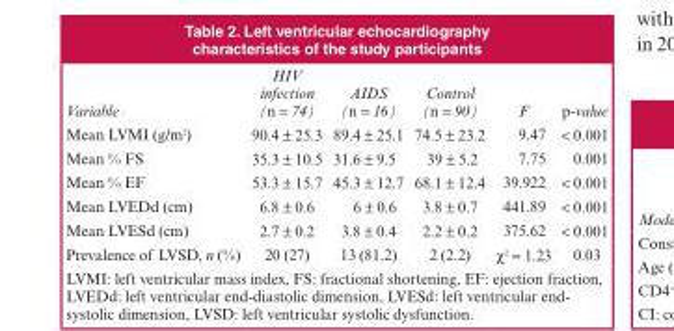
<table><thead><tr><td>Variable</td><td>HIV infection (n = 74)</td><td>AIDS (n = 16)</td><td>Control (n = 90)</td><td>F</td><td>p-value</td></tr></thead><tbody><tr><td>Mean LVMI (g/m<sup>2</sup>)</td><td>90.4 ± 25.3</td><td>89.4 ± 25.1</td><td>74.5 ± 23.2</td><td>9.47</td><td>&lt; 0.001</td></tr><tr><td>Mean % FS</td><td>35.3 ± 10.5</td><td>31.6 ± 9.5</td><td>39 ± 5.2</td><td>7.75</td><td>0.001</td></tr><tr><td>Mean % EF</td><td>53.3 ± 15.7</td><td>45.3 ± 12.7</td><td>68.1 ± 12.4</td><td>39.922</td><td>&lt; 0.001</td></tr><tr><td>Mean LVEDd (cm)</td><td>6.8 ± 0.6</td><td>6 ± 0.6</td><td>3.8 ± 0.7</td><td>441.89</td><td>&lt; 0.001</td></tr><tr><td>Mean LVESd (cm)</td><td>2.7 ± 0.2</td><td>3.8 ± 0.4</td><td>2.2 ± 0.2</td><td>375.62</td><td>&lt; 0.001</td></tr><tr><td>Prevalence of LVSD, n (%)</td><td>20 (27)</td><td>13 (81.2)</td><td>2 (2.2)</td><td>χ<sup>2</sup> = 1.23</td><td>0.03</td></tr></tbody></table>